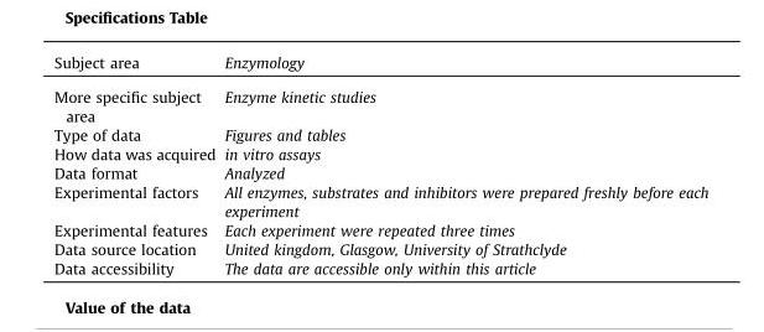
<table><thead><tr><td>Subject area</td><td>Enzymology</td></tr></thead><tbody><tr><td>More specific subject area</td><td>Enzyme kinetic studies</td></tr><tr><td>Type of data</td><td>Figures and tables</td></tr><tr><td>How data was acquired</td><td>in vitro assays</td></tr><tr><td>Data format</td><td>Analyzed</td></tr><tr><td>Experimental factors</td><td>All enzymes, substrates and inhibitors were prepared freshly before each experiment</td></tr><tr><td>Experimental features</td><td>Each experiment were repeated three times</td></tr><tr><td>Data source location</td><td>United kingdom, Glasgow, University of Strathclyde</td></tr><tr><td>Data accessibility</td><td>The data are accessible only within this article</td></tr></tbody></table>